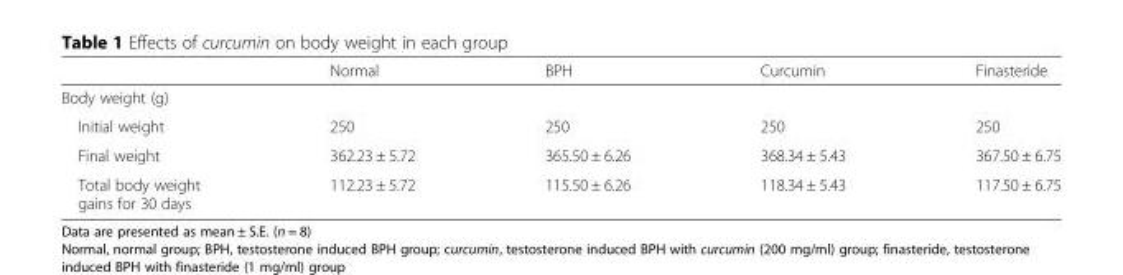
<table><thead><tr><td></td><td>Normal</td><td>BPH</td><td>Curcumin</td><td>Finasteride</td></tr></thead><tbody><tr><td colspan="5">Body weight (g)</td></tr><tr><td>Initial weight</td><td>250</td><td>250</td><td>250</td><td>250</td></tr><tr><td>Final weight</td><td>362.23 ± 5.72</td><td>365.50 ± 6.26</td><td>368.34 ± 5.43</td><td>367.50 ± 6.75</td></tr><tr><td>Total body weight gains for 30 days</td><td>112.23 ± 5.72</td><td>115.50 ± 6.26</td><td>118.34 ± 5.43</td><td>117.50 ± 6.75</td></tr></tbody></table>